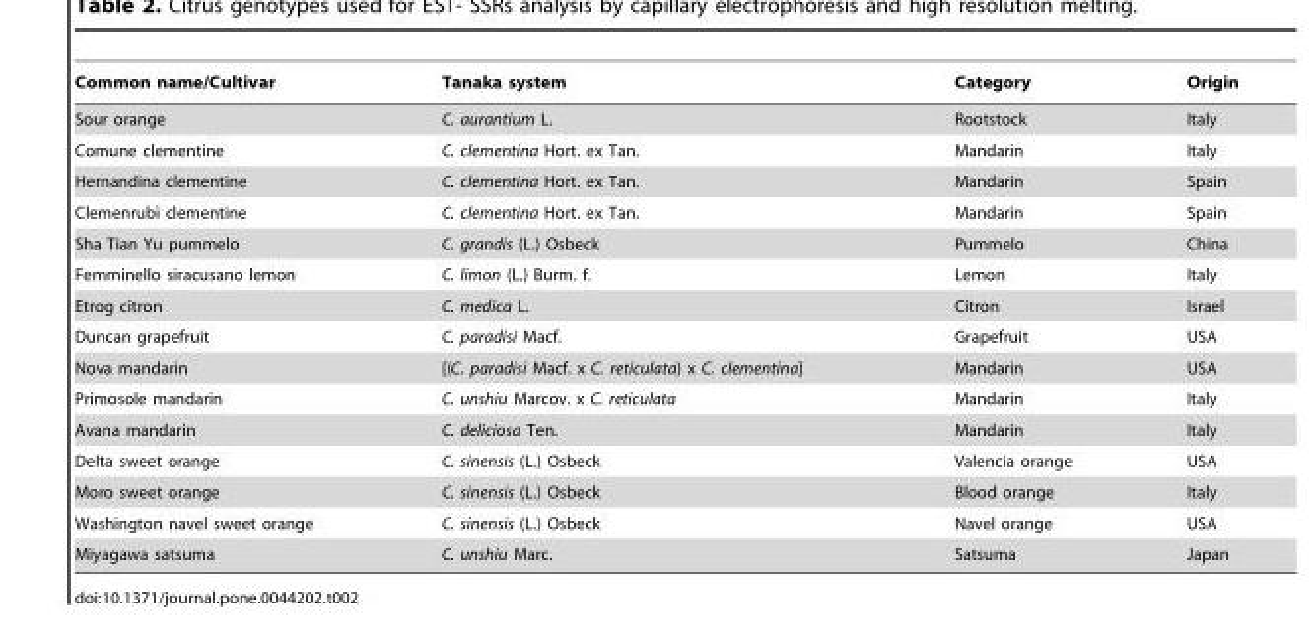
<table><thead><tr><td>Common name/Cultivar</td><td>Tanaka system</td><td>Category</td><td>Origin</td></tr></thead><tbody><tr><td>Sour orange</td><td>C. aurantium L.</td><td>Rootstock</td><td>Italy</td></tr><tr><td>Comune clementine</td><td>C. clementina Hort. ex Tan.</td><td>Mandarin</td><td>Italy</td></tr><tr><td>Hernandina clementine</td><td>C. clementina Hort. ex Tan.</td><td>Mandarin</td><td>Spain</td></tr><tr><td>Clemenrubı` clementine</td><td>C. clementina Hort. ex Tan.</td><td>Mandarin</td><td>Spain</td></tr><tr><td>Sha Tian Yu pummelo</td><td>C. grandis (L.) Osbeck</td><td>Pummelo</td><td>China</td></tr><tr><td>Femminello siracusano lemon</td><td>C. limon (L.) Burm. f.</td><td>Lemon</td><td>Italy</td></tr><tr><td>Etrog citron</td><td>C. medica L.</td><td>Citron</td><td>Israel</td></tr><tr><td>Duncan grapefruit</td><td>C. paradisi Macf.</td><td>Grapefruit</td><td>USA</td></tr><tr><td>Nova mandarin</td><td>[(C. paradisi Macf. x C. reticulata) x C. clementina]</td><td>Mandarin</td><td>USA</td></tr><tr><td>Primosole mandarin</td><td>C. unshiu Marcov. x C. reticulata</td><td>Mandarin</td><td>Italy</td></tr><tr><td>Avana mandarin</td><td>C. deliciosa Ten.</td><td>Mandarin</td><td>Italy</td></tr><tr><td>Delta sweet orange</td><td>C. sinensis (L.) Osbeck</td><td>Valencia orange</td><td>USA</td></tr><tr><td>Moro sweet orange</td><td>C. sinensis (L.) Osbeck</td><td>Blood orange</td><td>Italy</td></tr><tr><td>Washington navel sweet orange</td><td>C. sinensis (L.) Osbeck</td><td>Navel orange</td><td>USA</td></tr><tr><td>Miyagawa satsuma</td><td>C. unshiu Marc.</td><td>Satsuma</td><td>Japan</td></tr></tbody></table>